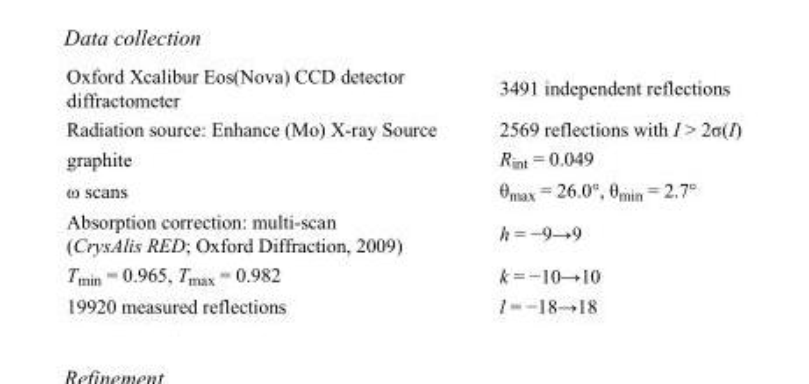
<table><tbody><tr><td>Oxford Xcalibur Eos(Nova) CCD detector diffractometer</td><td>3491 independent reflections</td></tr><tr><td>Radiation source: Enhance (Mo) X-ray Source</td><td>2569 reflections with I &gt; 2σ(I)</td></tr><tr><td>graphite</td><td>R<sub>int</sub> = 0.049</td></tr><tr><td>ω scans</td><td>θ<sub>max</sub> = 26.0°, θ<sub>min</sub> = 2.7°</td></tr><tr><td>Absorption correction: multi-scan (CrysAlis RED; Oxford Diffraction, 2009)</td><td>h = −9→9</td></tr><tr><td>T<sub>min</sub> = 0.965, T<sub>max</sub> = 0.982</td><td>k = −10→10</td></tr><tr><td>19920 measured reflections</td><td>l = −18→18</td></tr></tbody></table>